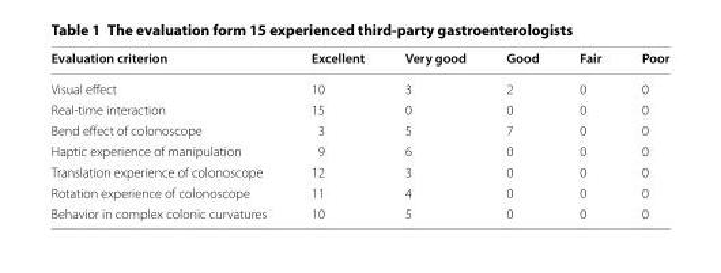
<table><thead><tr><td>Evaluation criterion</td><td>Excellent</td><td>Very good</td><td>Good</td><td>Fair</td><td>Poor</td></tr></thead><tbody><tr><td>Visual effect</td><td>10</td><td>3</td><td>2</td><td>0</td><td>0</td></tr><tr><td>Real-time interaction</td><td>15</td><td>0</td><td>0</td><td>0</td><td>0</td></tr><tr><td>Bend effect of colonoscope</td><td>3</td><td>5</td><td>7</td><td>0</td><td>0</td></tr><tr><td>Haptic experience of manipulation</td><td>9</td><td>6</td><td>0</td><td>0</td><td>0</td></tr><tr><td>Translation experience of colonoscope</td><td>12</td><td>3</td><td>0</td><td>0</td><td>0</td></tr><tr><td>Rotation experience of colonoscope</td><td>11</td><td>4</td><td>0</td><td>0</td><td>0</td></tr><tr><td>Behavior in complex colonic curvatures</td><td>10</td><td>5</td><td>0</td><td>0</td><td>0</td></tr></tbody></table>